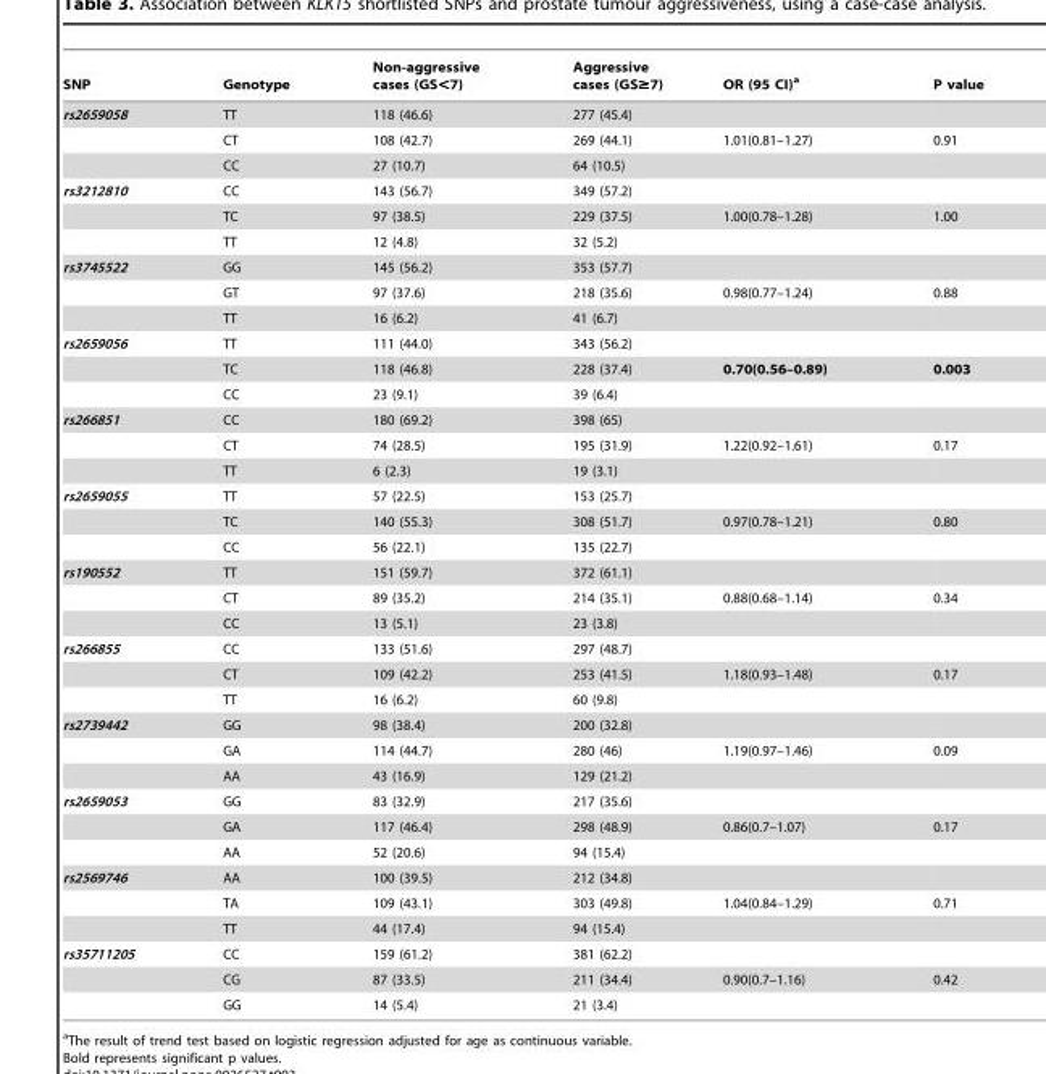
<table><thead><tr><td>SNP</td><td>Genotype</td><td>Non-aggressive cases (GS&lt;7)</td><td>Aggressive cases (GS≥7)</td><td>OR (95 CI)<sup>a</sup></td><td>P value</td></tr></thead><tbody><tr><td rowspan="3">rs2659058</td><td>TT</td><td>118 (46.6)</td><td>277 (45.4)</td><td></td><td></td></tr><tr><td>CT</td><td>108 (42.7)</td><td>269 (44.1)</td><td>1.01(0.81–1.27)</td><td>0.91</td></tr><tr><td>CC</td><td>27 (10.7)</td><td>64 (10.5)</td><td></td><td></td></tr><tr><td rowspan="3">rs3212810</td><td>CC</td><td>143 (56.7)</td><td>349 (57.2)</td><td></td><td></td></tr><tr><td>TC</td><td>97 (38.5)</td><td>229 (37.5)</td><td>1.00(0.78–1.28)</td><td>1.00</td></tr><tr><td>TT</td><td>12 (4.8)</td><td>32 (5.2)</td><td></td><td></td></tr><tr><td rowspan="3">rs3745522</td><td>GG</td><td>145 (56.2)</td><td>353 (57.7)</td><td></td><td></td></tr><tr><td>GT</td><td>97 (37.6)</td><td>218 (35.6)</td><td>0.98(0.77–1.24)</td><td>0.88</td></tr><tr><td>TT</td><td>16 (6.2)</td><td>41 (6.7)</td><td></td><td></td></tr><tr><td rowspan="3">rs2659056</td><td>TT</td><td>111 (44.0)</td><td>343 (56.2)</td><td></td><td></td></tr><tr><td>TC</td><td>118 (46.8)</td><td>228 (37.4)</td><td>0.70(0.56–0.89)</td><td>0.003</td></tr><tr><td>CC</td><td>23 (9.1)</td><td>39 (6.4)</td><td></td><td></td></tr><tr><td rowspan="3">rs266851</td><td>CC</td><td>180 (69.2)</td><td>398 (65)</td><td></td><td></td></tr><tr><td>CT</td><td>74 (28.5)</td><td>195 (31.9)</td><td>1.22(0.92–1.61)</td><td>0.17</td></tr><tr><td>TT</td><td>6 (2.3)</td><td>19 (3.1)</td><td></td><td></td></tr><tr><td rowspan="3">rs2659055</td><td>TT</td><td>57 (22.5)</td><td>153 (25.7)</td><td></td><td></td></tr><tr><td>TC</td><td>140 (55.3)</td><td>308 (51.7)</td><td>0.97(0.78–1.21)</td><td>0.80</td></tr><tr><td>CC</td><td>56 (22.1)</td><td>135 (22.7)</td><td></td><td></td></tr><tr><td rowspan="3">rs190552</td><td>TT</td><td>151 (59.7)</td><td>372 (61.1)</td><td></td><td></td></tr><tr><td>CT</td><td>89 (35.2)</td><td>214 (35.1)</td><td>0.88(0.68–1.14)</td><td>0.34</td></tr><tr><td>CC</td><td>13 (5.1)</td><td>23 (3.8)</td><td></td><td></td></tr><tr><td rowspan="3">rs266855</td><td>CC</td><td>133 (51.6)</td><td>297 (48.7)</td><td></td><td></td></tr><tr><td>CT</td><td>109 (42.2)</td><td>253 (41.5)</td><td>1.18(0.93–1.48)</td><td>0.17</td></tr><tr><td>TT</td><td>16 (6.2)</td><td>60 (9.8)</td><td></td><td></td></tr><tr><td rowspan="3">rs2739442</td><td>GG</td><td>98 (38.4)</td><td>200 (32.8)</td><td></td><td></td></tr><tr><td>GA</td><td>114 (44.7)</td><td>280 (46)</td><td>1.19(0.97–1.46)</td><td>0.09</td></tr><tr><td>AA</td><td>43 (16.9)</td><td>129 (21.2)</td><td></td><td></td></tr><tr><td rowspan="3">rs2659053</td><td>GG</td><td>83 (32.9)</td><td>217 (35.6)</td><td></td><td></td></tr><tr><td>GA</td><td>117 (46.4)</td><td>298 (48.9)</td><td>0.86(0.7–1.07)</td><td>0.17</td></tr><tr><td>AA</td><td>52 (20.6)</td><td>94 (15.4)</td><td></td><td></td></tr><tr><td rowspan="3">rs2569746</td><td>AA</td><td>100 (39.5)</td><td>212 (34.8)</td><td></td><td></td></tr><tr><td>TA</td><td>109 (43.1)</td><td>303 (49.8)</td><td>1.04(0.84–1.29)</td><td>0.71</td></tr><tr><td>TT</td><td>44 (17.4)</td><td>94 (15.4)</td><td></td><td></td></tr><tr><td rowspan="3">rs35711205</td><td>CC</td><td>159 (61.2)</td><td>381 (62.2)</td><td></td><td></td></tr><tr><td>CG</td><td>87 (33.5)</td><td>211 (34.4)</td><td>0.90(0.7–1.16)</td><td>0.42</td></tr><tr><td>GG</td><td>14 (5.4)</td><td>21 (3.4)</td><td></td><td></td></tr></tbody></table>